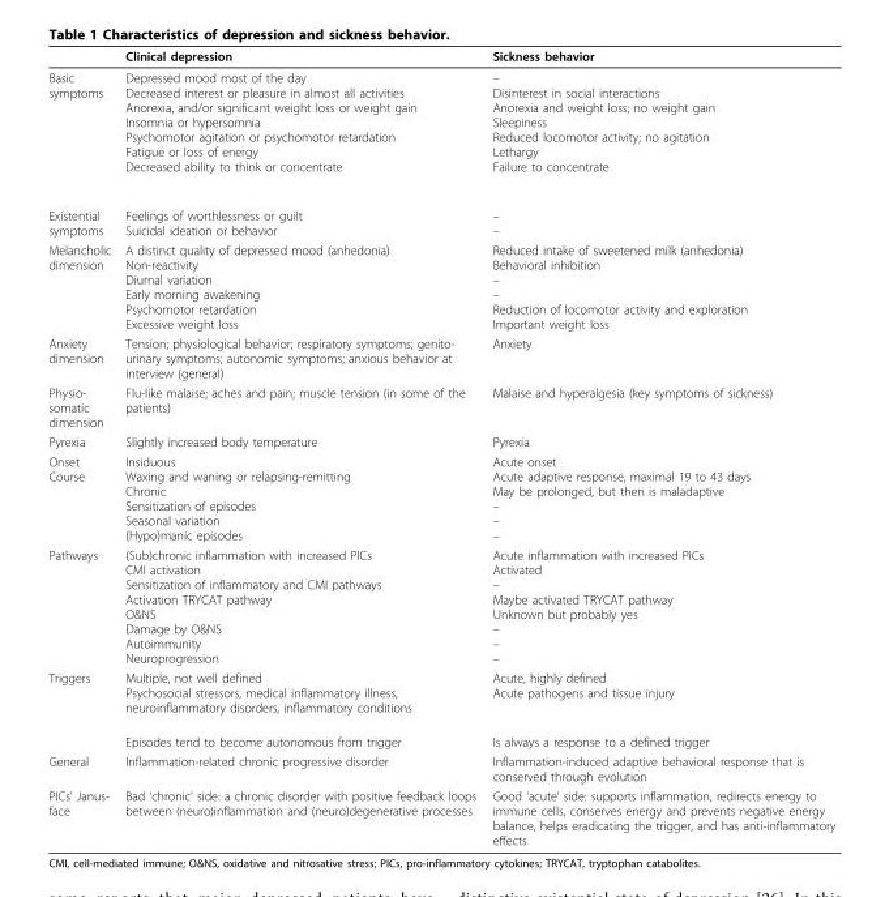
<table><thead><tr><td></td><td>Clinical depression</td><td>Sickness behavior</td></tr></thead><tbody><tr><td>Basic symptoms</td><td>Depressed mood most of the day Decreased interest or pleasure in almost all activities Anorexia, and/or significant weight loss or weight gain Insomnia or hypersomnia Psychomotor agitation or psychomotor retardation Fatigue or loss of energy Decreased ability to think or concentrate</td><td>– Disinterest in social interactions Anorexia and weight loss; no weight gain Sleepiness Reduced locomotor activity; no agitation Lethargy Failure to concentrate</td></tr><tr><td>Existential symptoms</td><td>Feelings of worthlessness or guilt Suicidal ideation or behavior</td><td>– –</td></tr><tr><td>Melancholic dimension</td><td>A distinct quality of depressed mood (anhedonia) Non-reactivity Diurnal variation Early morning awakening Psychomotor retardation Excessive weight loss</td><td>Reduced intake of sweetened milk (anhedonia) Behavioral inhibition – – Reduction of locomotor activity and exploration Important weight loss</td></tr><tr><td>Anxiety dimension</td><td>Tension; physiological behavior; respiratory symptoms; genito- urinary symptoms; autonomic symptoms; anxious behavior at interview (general)</td><td>Anxiety</td></tr><tr><td>Physio- somatic dimension</td><td>Flu-like malaise; aches and pain; muscle tension (in some of the patients)</td><td>Malaise and hyperalgesia (key symptoms of sickness)</td></tr><tr><td>Pyrexia</td><td>Slightly increased body temperature</td><td>Pyrexia</td></tr><tr><td>Onset Course</td><td>Insiduous Waxing and waning or relapsing-remitting Chronic Sensitization of episodes Seasonal variation (Hypo)manic episodes</td><td>Acute onset Acute adaptive response, maximal 19 to 43 days May be prolonged, but then is maladaptive – – –</td></tr><tr><td>Pathways</td><td>(Sub)chronic inflammation with increased PICs CMI activation Sensitization of inflammatory and CMI pathways Activation TRYCAT pathway O&amp;NS Damage by O&amp;NS Autoimmunity Neuroprogression</td><td>Acute inflammation with increased PICs Activated – Maybe activated TRYCAT pathway Unknown but probably yes – – –</td></tr><tr><td rowspan="2">Triggers</td><td>Multiple, not well defined Psychosocial stressors, medical inflammatory illness, neuroinflammatory disorders, inflammatory conditions</td><td>Acute, highly defined Acute pathogens and tissue injury</td></tr><tr><td>Episodes tend to become autonomous from trigger</td><td>Is always a response to a defined trigger</td></tr><tr><td>General</td><td>Inflammation-related chronic progressive disorder</td><td>Inflammation-induced adaptive behavioral response that is conserved through evolution</td></tr><tr><td>PICs’ Janus- face</td><td>Bad ‘chronic’ side: a chronic disorder with positive feedback loops between (neuro)inflammation and (neuro)degenerative processes</td><td>Good ‘acute’ side: supports inflammation, redirects energy to immune cells, conserves energy and prevents negative energy balance, helps eradicating the trigger, and has anti-inflammatory effects</td></tr></tbody></table>